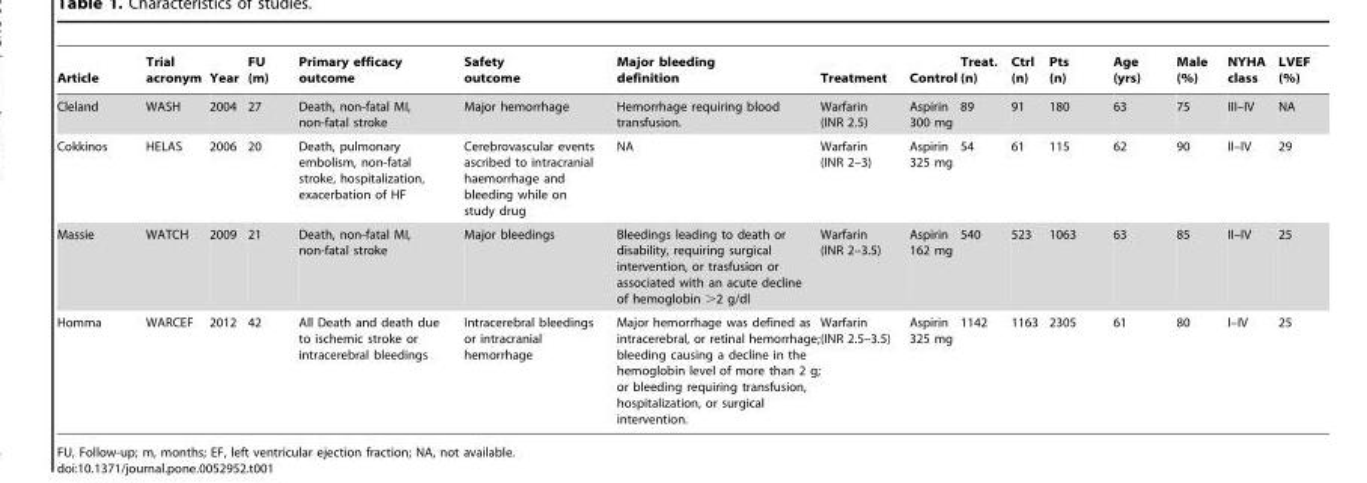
<table><thead><tr><td>Article</td><td>Trial acronym</td><td>Year</td><td>FU (m)</td><td>Primary efficacy outcome</td><td>Safety outcome</td><td>Major bleeding definition</td><td>Treatment</td><td>Control</td><td>Treat. (n)</td><td>Ctrl (n)</td><td>Pts (n)</td><td>Age (yrs)</td><td>Male (%)</td><td>NYHA class</td><td>LVEF (%)</td></tr></thead><tbody><tr><td>Cleland</td><td>WASH</td><td>2004</td><td>27</td><td>Death, non-fatal MI, non-fatal stroke</td><td>Major hemorrhage</td><td>Hemorrhage requiring blood transfusion.</td><td>Warfarin (INR 2.5)</td><td>Aspirin 300 mg</td><td>89</td><td>91</td><td>180</td><td>63</td><td>75</td><td>III–IV</td><td>NA</td></tr><tr><td>Cokkinos</td><td>HELAS</td><td>2006</td><td>20</td><td>Death, pulmonary embolism, non-fatal stroke, hospitalization, exacerbation of HF</td><td>Cerebrovascular events ascribed to intracranial haemorrhage and bleeding while on study drug</td><td>NA</td><td>Warfarin (INR 2–3)</td><td>Aspirin 325 mg</td><td>54</td><td>61</td><td>115</td><td>62</td><td>90</td><td>II–IV</td><td>29</td></tr><tr><td>Massie</td><td>WATCH</td><td>2009</td><td>21</td><td>Death, non-fatal MI, non-fatal stroke</td><td>Major bleedings</td><td>Bleedings leading to death or disability, requiring surgical intervention, or trasfusion or associated with an acute decline of hemoglobin &gt;2 g/dl</td><td>Warfarin (INR 2–3.5)</td><td>Aspirin 162 mg</td><td>540</td><td>523</td><td>1063</td><td>63</td><td>85</td><td>II–IV</td><td>25</td></tr><tr><td>Homma</td><td>WARCEF</td><td>2012</td><td>42</td><td>All Death and death due to ischemic stroke or intracerebral bleedings</td><td>Intracerebral bleedings or intracranial hemorrhage</td><td>Major hemorrhage was defined as intracerebral, or retinal hemorrhage; bleeding causing a decline in the hemoglobin level of more than 2 g; or bleeding requiring transfusion, hospitalization, or surgical intervention.</td><td>Warfarin (INR 2.5–3.5)</td><td>Aspirin 325 mg</td><td>1142</td><td>1163</td><td>2305</td><td>61</td><td>80</td><td>I–IV</td><td>25</td></tr></tbody></table>